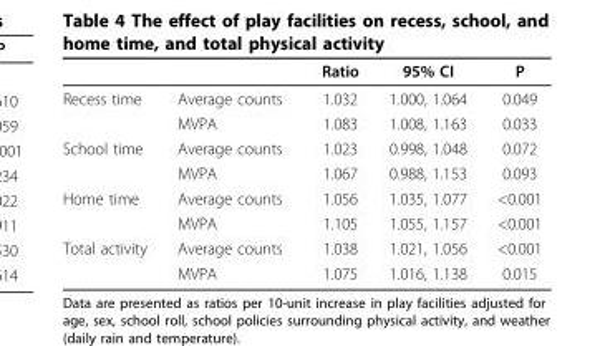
<table><thead><tr><td></td><td></td><td>Ratio</td><td>95% CI</td><td>P</td></tr></thead><tbody><tr><td rowspan="2">Recess time</td><td>Average counts</td><td>1.032</td><td>1.000, 1.064</td><td>0.049</td></tr><tr><td>MVPA</td><td>1.083</td><td>1.008, 1.163</td><td>0.033</td></tr><tr><td rowspan="2">School time</td><td>Average counts</td><td>1.023</td><td>0.998, 1.048</td><td>0.072</td></tr><tr><td>MVPA</td><td>1.067</td><td>0.988, 1.153</td><td>0.093</td></tr><tr><td rowspan="2">Home time</td><td>Average counts</td><td>1.056</td><td>1.035, 1.077</td><td>&lt;0.001</td></tr><tr><td>MVPA</td><td>1.105</td><td>1.055, 1.157</td><td>&lt;0.001</td></tr><tr><td rowspan="2">Total activity</td><td>Average counts</td><td>1.038</td><td>1.021, 1.056</td><td>&lt;0.001</td></tr><tr><td>MVPA</td><td>1.075</td><td>1.016, 1.138</td><td>0.015</td></tr></tbody></table>